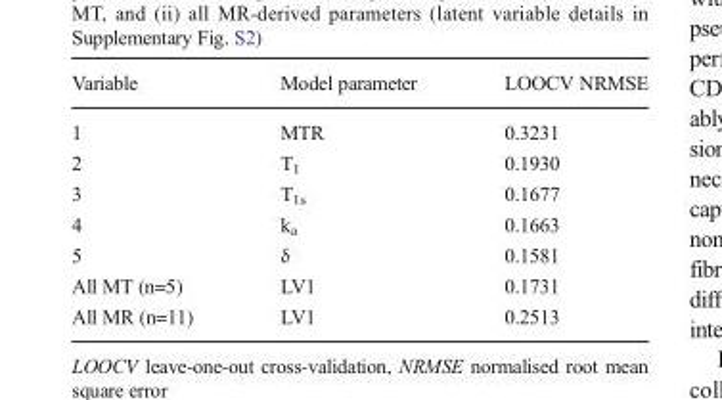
<table><thead><tr><td>Variable</td><td>Model parameter</td><td>LOOCV NRMSE</td></tr></thead><tbody><tr><td>1</td><td>MTR</td><td>0.3231</td></tr><tr><td>2</td><td>T<sub>1</sub></td><td>0.1930</td></tr><tr><td>3</td><td>T<sub>1s</sub></td><td>0.1677</td></tr><tr><td>4</td><td>k<sub>a</sub></td><td>0.1663</td></tr><tr><td>5</td><td>δ</td><td>0.1581</td></tr><tr><td>All MT (n=5)</td><td>LV1</td><td>0.1731</td></tr><tr><td>All MR (n=11)</td><td>LV1</td><td>0.2513</td></tr></tbody></table>